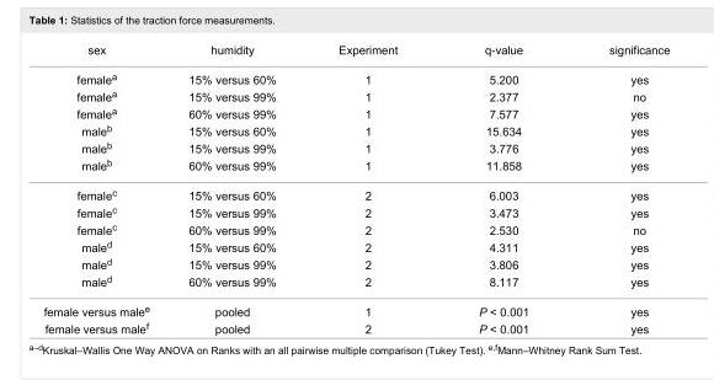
<table><tbody><tr><td>sex</td><td>humidity</td><td>Experiment</td><td>q-value</td><td>significance</td></tr><tr><td>female<sup>a</sup></td><td>15% versus 60%</td><td>1</td><td>5.200</td><td>yes</td></tr><tr><td>female<sup>a</sup></td><td>15% versus 99%</td><td>1</td><td>2.377</td><td>no</td></tr><tr><td>female<sup>a</sup></td><td>60% versus 99%</td><td>1</td><td>7.577</td><td>yes</td></tr><tr><td>male<sup>b</sup></td><td>15% versus 60%</td><td>1</td><td>15.634</td><td>yes</td></tr><tr><td>male<sup>b</sup></td><td>15% versus 99%</td><td>1</td><td>3.776</td><td>yes</td></tr><tr><td>male<sup>b</sup></td><td>60% versus 99%</td><td>1</td><td>11.858</td><td>yes</td></tr><tr><td>female<sup>c</sup></td><td>15% versus 60%</td><td>2</td><td>6.003</td><td>yes</td></tr><tr><td>female<sup>c</sup></td><td>15% versus 99%</td><td>2</td><td>3.473</td><td>yes</td></tr><tr><td>female<sup>c</sup></td><td>60% versus 99%</td><td>2</td><td>2.530</td><td>no</td></tr><tr><td>male<sup>d</sup></td><td>15% versus 60%</td><td>2</td><td>4.311</td><td>yes</td></tr><tr><td>male<sup>d</sup></td><td>15% versus 99%</td><td>2</td><td>3.806</td><td>yes</td></tr><tr><td>male<sup>d</sup></td><td>60% versus 99%</td><td>2</td><td>8.117</td><td>yes</td></tr><tr><td>female versus male<sup>e</sup></td><td>pooled</td><td>1</td><td>P &lt; 0.001</td><td>yes</td></tr><tr><td>female versus male<sup>f</sup></td><td>pooled</td><td>2</td><td>P &lt; 0.001</td><td>yes</td></tr></tbody></table>